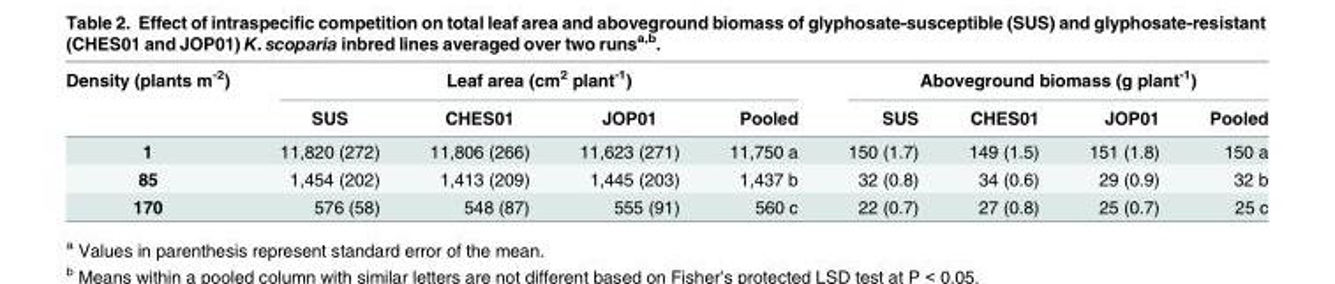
<table><thead><tr><td rowspan="2">Density (plants m<sup>-2</sup>)</td><td colspan="4">Leaf area (cm<sup>2</sup> plant<sup>-1</sup>)</td><td colspan="4">Aboveground biomass (g plant<sup>-1</sup>)</td></tr><tr><td>SUS</td><td>CHES01</td><td>JOP01</td><td>Pooled</td><td>SUS</td><td>CHES01</td><td>JOP01</td><td>Pooled</td></tr></thead><tbody><tr><td>1</td><td>11,820 (272)</td><td>11,806 (266)</td><td>11,623 (271)</td><td>11,750 a</td><td>150 (1.7)</td><td>149 (1.5)</td><td>151 (1.8)</td><td>150 a</td></tr><tr><td>85</td><td>1,454 (202)</td><td>1,413 (209)</td><td>1,445 (203)</td><td>1,437 b</td><td>32 (0.8)</td><td>34 (0.6)</td><td>29 (0.9)</td><td>32 b</td></tr><tr><td>170</td><td>576 (58)</td><td>548 (87)</td><td>555 (91)</td><td>560 c</td><td>22 (0.7)</td><td>27 (0.8)</td><td>25 (0.7)</td><td>25 c</td></tr></tbody></table>